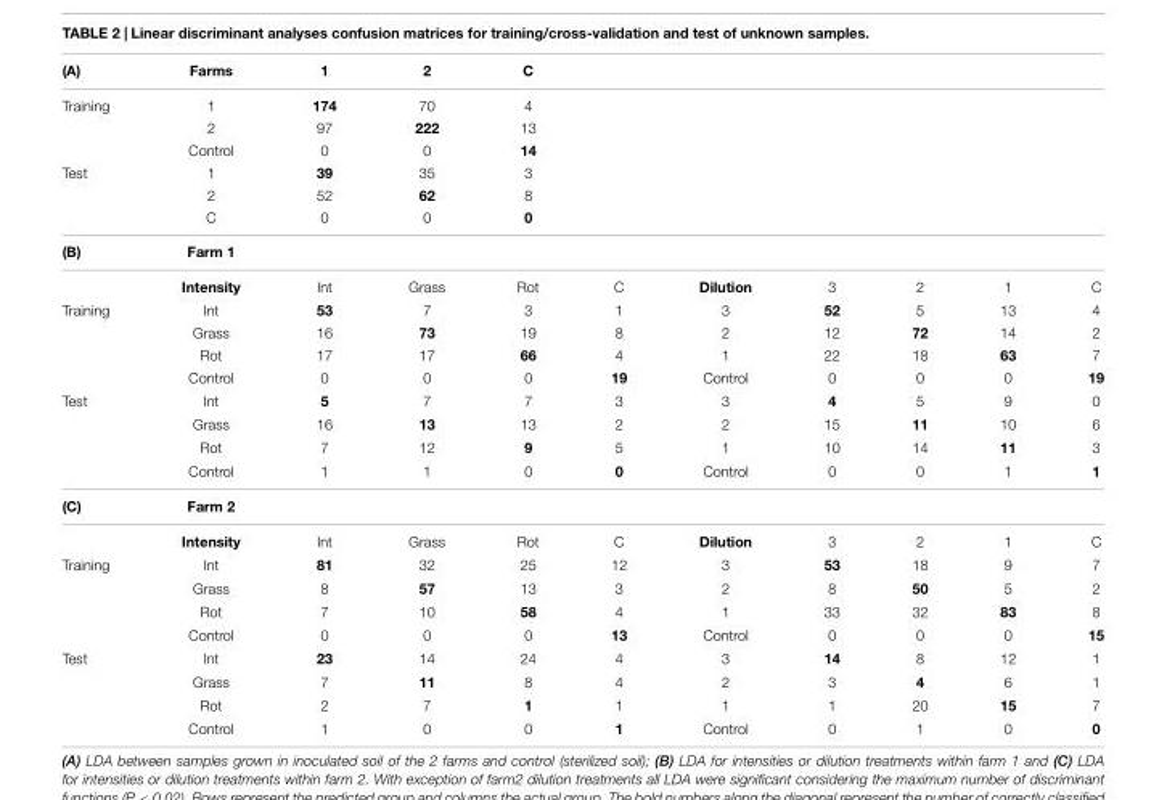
<table><thead><tr><td>(A)</td><td>Farms</td><td>1</td><td>2</td><td>C</td><td></td><td></td><td></td><td></td><td></td><td></td></tr></thead><tbody><tr><td rowspan="3">Training</td><td>1</td><td>174</td><td>70</td><td>4</td><td></td><td></td><td></td><td></td><td></td><td></td></tr><tr><td>2</td><td>97</td><td>222</td><td>13</td><td></td><td></td><td></td><td></td><td></td><td></td></tr><tr><td>Control</td><td>0</td><td>0</td><td>14</td><td></td><td></td><td></td><td></td><td></td><td></td></tr><tr><td rowspan="3">Test</td><td>1</td><td>39</td><td>35</td><td>3</td><td></td><td></td><td></td><td></td><td></td><td></td></tr><tr><td>2</td><td>52</td><td>62</td><td>8</td><td></td><td></td><td></td><td></td><td></td><td></td></tr><tr><td>C</td><td>0</td><td>0</td><td>0</td><td></td><td></td><td></td><td></td><td></td><td></td></tr><tr><td rowspan="2">(B)</td><td>Farm 1</td><td></td><td></td><td></td><td></td><td></td><td></td><td></td><td></td><td></td></tr><tr><td>Intensity</td><td>Int</td><td>Grass</td><td>Rot</td><td>C</td><td>Dilution</td><td>3</td><td>2</td><td>1</td><td>C</td></tr><tr><td rowspan="4">Training</td><td>Int</td><td>53</td><td>7</td><td>3</td><td>1</td><td>3</td><td>52</td><td>5</td><td>13</td><td>4</td></tr><tr><td>Grass</td><td>16</td><td>73</td><td>19</td><td>8</td><td>2</td><td>12</td><td>72</td><td>14</td><td>2</td></tr><tr><td>Rot</td><td>17</td><td>17</td><td>66</td><td>4</td><td>1</td><td>22</td><td>18</td><td>63</td><td>7</td></tr><tr><td>Control</td><td>0</td><td>0</td><td>0</td><td>19</td><td>Control</td><td>0</td><td>0</td><td>0</td><td>19</td></tr><tr><td rowspan="4">Test</td><td>Int</td><td>5</td><td>7</td><td>7</td><td>3</td><td>3</td><td>4</td><td>5</td><td>9</td><td>0</td></tr><tr><td>Grass</td><td>16</td><td>13</td><td>13</td><td>2</td><td>2</td><td>15</td><td>11</td><td>10</td><td>6</td></tr><tr><td>Rot</td><td>7</td><td>12</td><td>9</td><td>5</td><td>1</td><td>10</td><td>14</td><td>11</td><td>3</td></tr><tr><td>Control</td><td>1</td><td>1</td><td>0</td><td>0</td><td>Control</td><td>0</td><td>0</td><td>1</td><td>1</td></tr><tr><td rowspan="2">(C)</td><td>Farm 2</td><td></td><td></td><td></td><td></td><td></td><td></td><td></td><td></td><td></td></tr><tr><td>Intensity</td><td>Int</td><td>Grass</td><td>Rot</td><td>C</td><td>Dilution</td><td>3</td><td>2</td><td>1</td><td>C</td></tr><tr><td rowspan="4">Training</td><td>Int</td><td>81</td><td>32</td><td>25</td><td>12</td><td>3</td><td>53</td><td>18</td><td>9</td><td>7</td></tr><tr><td>Grass</td><td>8</td><td>57</td><td>13</td><td>3</td><td>2</td><td>8</td><td>50</td><td>5</td><td>2</td></tr><tr><td>Rot</td><td>7</td><td>10</td><td>58</td><td>4</td><td>1</td><td>33</td><td>32</td><td>83</td><td>8</td></tr><tr><td>Control</td><td>0</td><td>0</td><td>0</td><td>13</td><td>Control</td><td>0</td><td>0</td><td>0</td><td>15</td></tr><tr><td rowspan="4">Test</td><td>Int</td><td>23</td><td>14</td><td>24</td><td>4</td><td>3</td><td>14</td><td>8</td><td>12</td><td>1</td></tr><tr><td>Grass</td><td>7</td><td>11</td><td>8</td><td>4</td><td>2</td><td>3</td><td>4</td><td>6</td><td>1</td></tr><tr><td>Rot</td><td>2</td><td>7</td><td>1</td><td>1</td><td>1</td><td>1</td><td>20</td><td>15</td><td>7</td></tr><tr><td>Control</td><td>1</td><td>0</td><td>0</td><td>1</td><td>Control</td><td>0</td><td>1</td><td>0</td><td>0</td></tr></tbody></table>